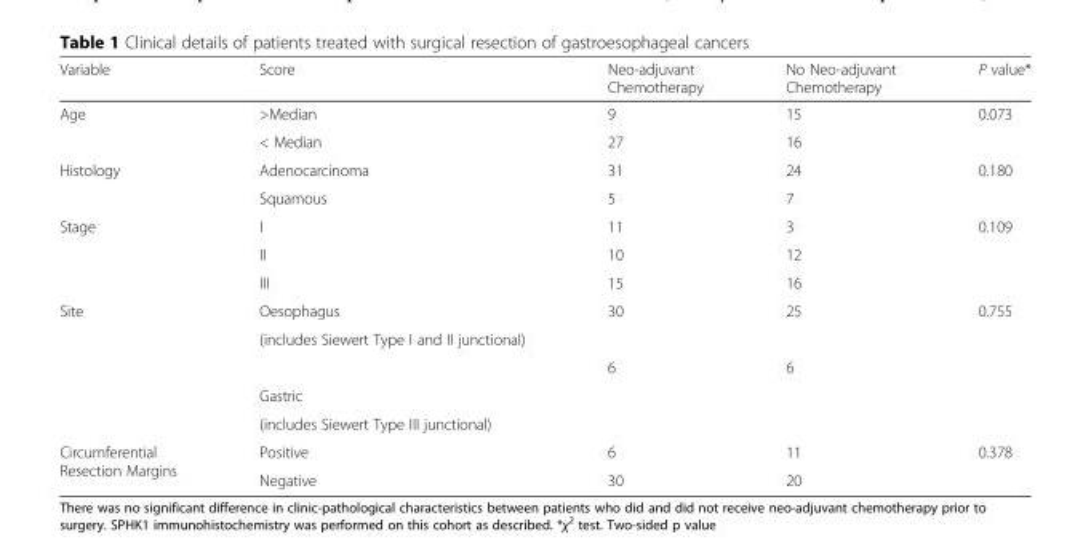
<table><thead><tr><td>Variable</td><td>Score</td><td>Neo-adjuvant Chemotherapy</td><td>No Neo-adjuvant Chemotherapy</td><td>P value*</td></tr></thead><tbody><tr><td rowspan="2">Age</td><td>&gt;Median</td><td>9</td><td>15</td><td rowspan="2">0.073</td></tr><tr><td>&lt; Median</td><td>27</td><td>16</td></tr><tr><td rowspan="2">Histology</td><td>Adenocarcinoma</td><td>31</td><td>24</td><td rowspan="2">0.180</td></tr><tr><td>Squamous</td><td>5</td><td>7</td></tr><tr><td rowspan="3">Stage</td><td>I</td><td>11</td><td>3</td><td rowspan="3">0.109</td></tr><tr><td>II</td><td>10</td><td>12</td></tr><tr><td>III</td><td>15</td><td>16</td></tr><tr><td rowspan="5">Site</td><td>Oesophagus</td><td>30</td><td>25</td><td rowspan="5">0.755</td></tr><tr><td>(includes Siewert Type I and II junctional)</td><td></td><td></td></tr><tr><td></td><td>6</td><td>6</td></tr><tr><td>Gastric</td><td></td><td></td></tr><tr><td>(includes Siewert Type III junctional)</td><td></td><td></td></tr><tr><td rowspan="2">Circumferential Resection Margins</td><td>Positive</td><td>6</td><td>11</td><td rowspan="2">0.378</td></tr><tr><td>Negative</td><td>30</td><td>20</td></tr></tbody></table>